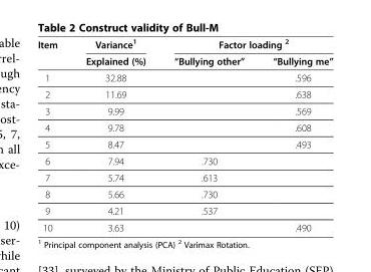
<table><thead><tr><td rowspan="2">Item</td><td rowspan="2">Variance<sup>1</sup> Explained (%)</td><td colspan="2">Factor loading <sup>2</sup></td></tr><tr><td>“Bullying other”</td><td>“Bullying me”</td></tr></thead><tbody><tr><td>1</td><td>32.88</td><td></td><td>.596</td></tr><tr><td>2</td><td>11.69</td><td></td><td>.638</td></tr><tr><td>3</td><td>9.99</td><td></td><td>.569</td></tr><tr><td>4</td><td>9.78</td><td></td><td>.608</td></tr><tr><td>5</td><td>8.47</td><td></td><td>.493</td></tr><tr><td>6</td><td>7.94</td><td>.730</td><td></td></tr><tr><td>7</td><td>5.74</td><td>.613</td><td></td></tr><tr><td>8</td><td>5.66</td><td>.730</td><td></td></tr><tr><td>9</td><td>4.21</td><td>.537</td><td></td></tr><tr><td>10</td><td>3.63</td><td></td><td>.490</td></tr></tbody></table>